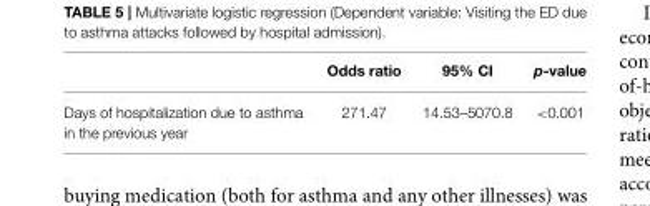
<table><thead><tr><td></td><td>Odds ratio</td><td>95% CI</td><td>p-value</td></tr></thead><tbody><tr><td>Days of hospitalization due to asthma in the previous year</td><td>271.47</td><td>14.53–5070.8</td><td>&lt;0.001</td></tr></tbody></table>